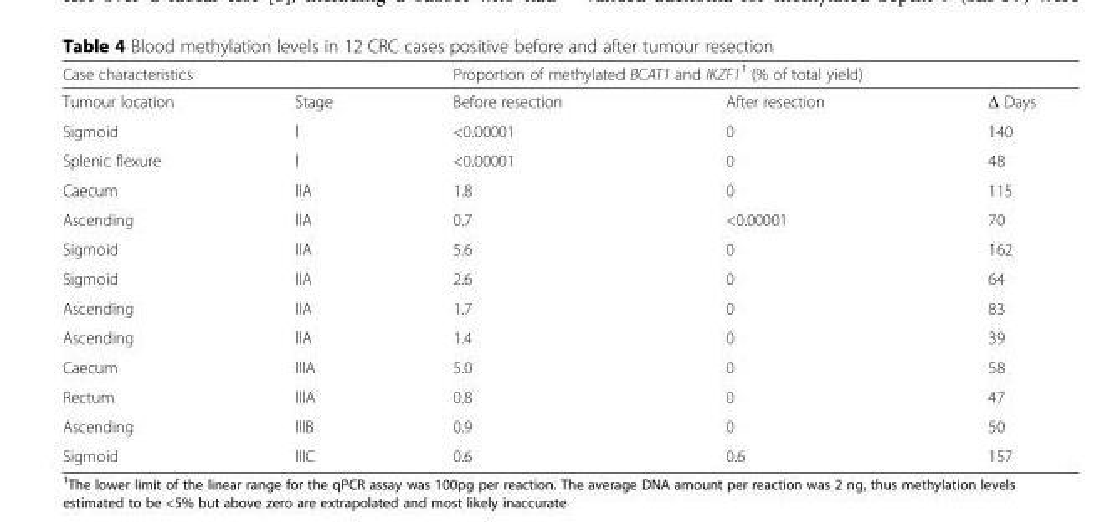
<table><thead><tr><td colspan="2">Case characteristics</td><td colspan="3">Proportion of methylated BCAT1 and IKZF1<sup>1</sup> (% of total yield)</td></tr><tr><td>Tumour location</td><td>Stage</td><td>Before resection</td><td>After resection</td><td>Δ Days</td></tr></thead><tbody><tr><td>Sigmoid</td><td>l</td><td>&lt;0.00001</td><td>0</td><td>140</td></tr><tr><td>Splenic flexure</td><td>l</td><td>&lt;0.00001</td><td>0</td><td>48</td></tr><tr><td>Caecum</td><td>llA</td><td>1.8</td><td>0</td><td>115</td></tr><tr><td>Ascending</td><td>llA</td><td>0.7</td><td>&lt;0.00001</td><td>70</td></tr><tr><td>Sigmoid</td><td>llA</td><td>5.6</td><td>0</td><td>162</td></tr><tr><td>Sigmoid</td><td>llA</td><td>2.6</td><td>0</td><td>64</td></tr><tr><td>Ascending</td><td>llA</td><td>1.7</td><td>0</td><td>83</td></tr><tr><td>Ascending</td><td>llA</td><td>1.4</td><td>0</td><td>39</td></tr><tr><td>Caecum</td><td>lllA</td><td>5.0</td><td>0</td><td>58</td></tr><tr><td>Rectum</td><td>lllA</td><td>0.8</td><td>0</td><td>47</td></tr><tr><td>Ascending</td><td>lllB</td><td>0.9</td><td>0</td><td>50</td></tr><tr><td>Sigmoid</td><td>lllC</td><td>0.6</td><td>0.6</td><td>157</td></tr></tbody></table>